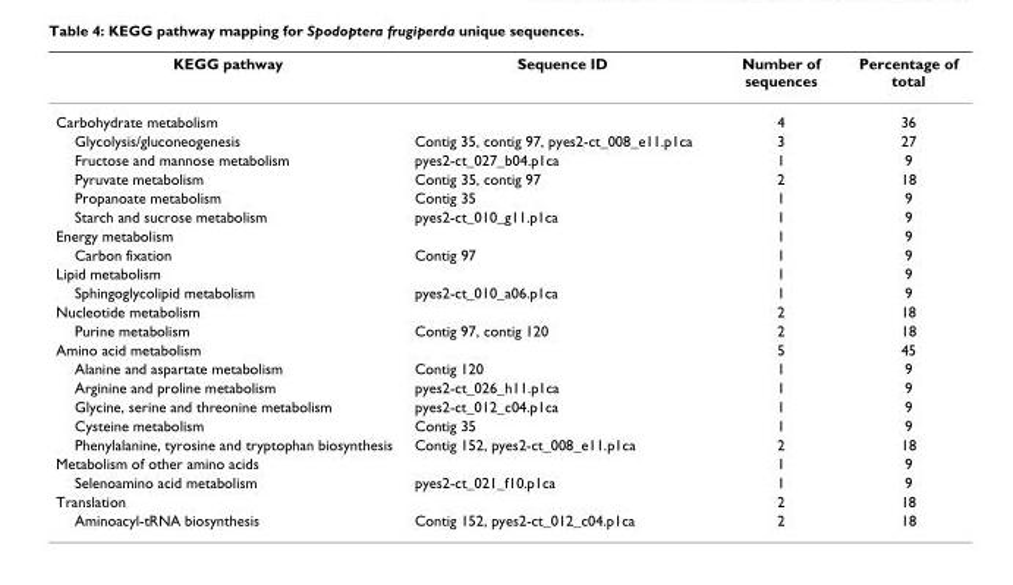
<table><thead><tr><td>KEGG pathway</td><td>Sequence ID</td><td>Number of sequences</td><td>Percentage of total</td></tr></thead><tbody><tr><td>Carbohydrate metabolism</td><td></td><td>4</td><td>36</td></tr><tr><td>Glycolysis/gluconeogenesis</td><td>Contig 35, contig 97, pyes2-ct_008_e11.p1ca</td><td>3</td><td>27</td></tr><tr><td>Fructose and mannose metabolism</td><td>pyes2-ct_027_b04.p1ca</td><td>1</td><td>9</td></tr><tr><td>Pyruvate metabolism</td><td>Contig 35, contig 97</td><td>2</td><td>18</td></tr><tr><td>Propanoate metabolism</td><td>Contig 35</td><td>1</td><td>9</td></tr><tr><td>Starch and sucrose metabolism</td><td>pyes2-ct_010_g11.p1ca</td><td>1</td><td>9</td></tr><tr><td>Energy metabolism</td><td></td><td>1</td><td>9</td></tr><tr><td>Carbon fixation</td><td>Contig 97</td><td>1</td><td>9</td></tr><tr><td>Lipid metabolism</td><td></td><td>1</td><td>9</td></tr><tr><td>Sphingoglycolipid metabolism</td><td>pyes2-ct_010_a06.p1ca</td><td>1</td><td>9</td></tr><tr><td>Nucleotide metabolism</td><td></td><td>2</td><td>18</td></tr><tr><td>Purine metabolism</td><td>Contig 97, contig 120</td><td>2</td><td>18</td></tr><tr><td>Amino acid metabolism</td><td></td><td>5</td><td>45</td></tr><tr><td>Alanine and aspartate metabolism</td><td>Contig 120</td><td>1</td><td>9</td></tr><tr><td>Arginine and proline metabolism</td><td>pyes2-ct_026_h11.p1ca</td><td>1</td><td>9</td></tr><tr><td>Glycine, serine and threonine metabolism</td><td>pyes2-ct_012_c04.p1ca</td><td>1</td><td>9</td></tr><tr><td>Cysteine metabolism</td><td>Contig 35</td><td>1</td><td>9</td></tr><tr><td>Phenylalanine, tyrosine and tryptophan biosynthesis</td><td>Contig 152, pyes2-ct_008_e11.p1ca</td><td>2</td><td>18</td></tr><tr><td>Metabolism of other amino acids</td><td></td><td>1</td><td>9</td></tr><tr><td>Selenoamino acid metabolism</td><td>pyes2-ct_021_f10.p1ca</td><td>1</td><td>9</td></tr><tr><td>Translation</td><td></td><td>2</td><td>18</td></tr><tr><td>Aminoacyl-tRNA biosynthesis</td><td>Contig 152, pyes2-ct_012_c04.p1ca</td><td>2</td><td>18</td></tr></tbody></table>